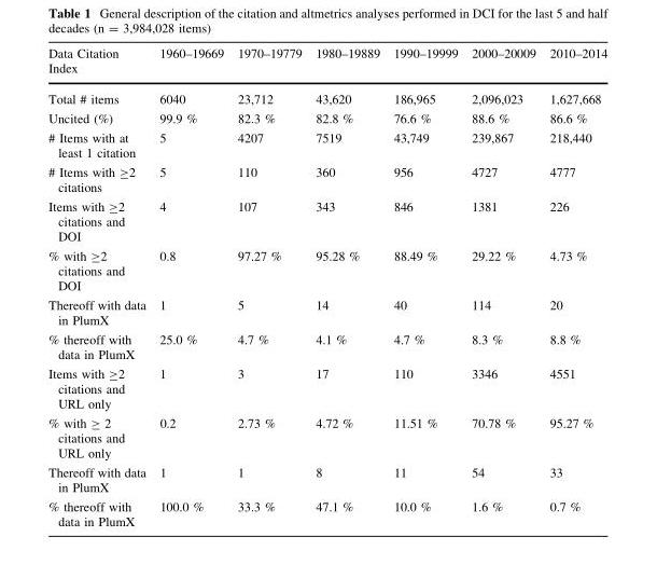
<table><thead><tr><td>Data Citation Index</td><td>1960–19669</td><td>1970–19779</td><td>1980–19889</td><td>1990–19999</td><td>2000–20009</td><td>2010–2014</td></tr></thead><tbody><tr><td>Total # items</td><td>6040</td><td>23,712</td><td>43,620</td><td>186,965</td><td>2,096,023</td><td>1,627,668</td></tr><tr><td>Uncited (%)</td><td>99.9 %</td><td>82.3 %</td><td>82.8 %</td><td>76.6 %</td><td>88.6 %</td><td>86.6 %</td></tr><tr><td># Items with at least 1 citation</td><td>5</td><td>4207</td><td>7519</td><td>43,749</td><td>239,867</td><td>218,440</td></tr><tr><td># Items with ≥2 citations</td><td>5</td><td>110</td><td>360</td><td>956</td><td>4727</td><td>4777</td></tr><tr><td>Items with ≥2 citations and DOI</td><td>4</td><td>107</td><td>343</td><td>846</td><td>1381</td><td>226</td></tr><tr><td>% with ≥2 citations and DOI</td><td>0.8</td><td>97.27 %</td><td>95.28 %</td><td>88.49 %</td><td>29.22 %</td><td>4.73 %</td></tr><tr><td>Thereoff with data in PlumX</td><td>1</td><td>5</td><td>14</td><td>40</td><td>114</td><td>20</td></tr><tr><td>% thereoff with data in PlumX</td><td>25.0 %</td><td>4.7 %</td><td>4.1 %</td><td>4.7 %</td><td>8.3 %</td><td>8.8 %</td></tr><tr><td>Items with ≥2 citations and URL only</td><td>1</td><td>3</td><td>17</td><td>110</td><td>3346</td><td>4551</td></tr><tr><td>% with ≥ 2 citations and URL only</td><td>0.2</td><td>2.73 %</td><td>4.72 %</td><td>11.51 %</td><td>70.78 %</td><td>95.27 %</td></tr><tr><td>Thereoff with data in PlumX</td><td>1</td><td>1</td><td>8</td><td>11</td><td>54</td><td>33</td></tr><tr><td>% thereoff with data in PlumX</td><td>100.0 %</td><td>33.3 %</td><td>47.1 %</td><td>10.0 %</td><td>1.6 %</td><td>0.7 %</td></tr></tbody></table>